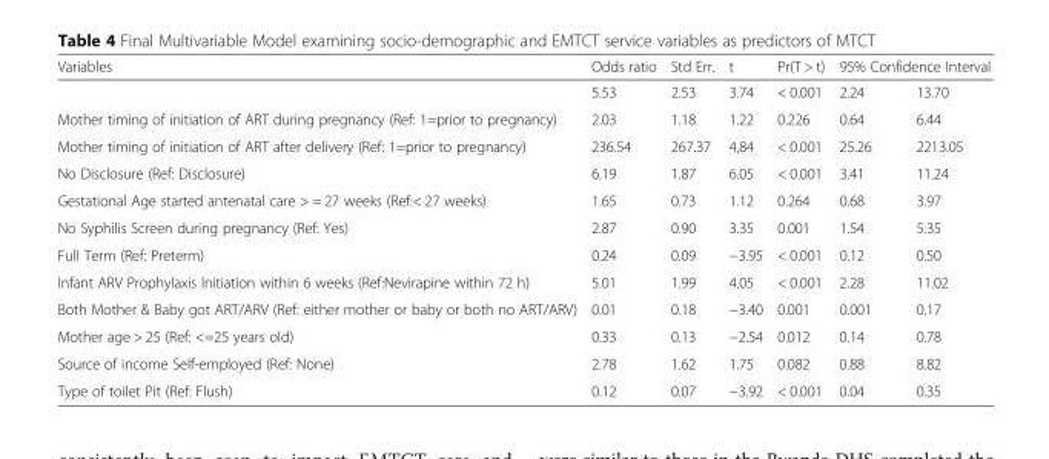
<table><thead><tr><td rowspan="2">Variables</td><td rowspan="2">Odds ratio 5.53</td><td rowspan="2">Std Err. 2.53</td><td rowspan="2">t 3.74</td><td rowspan="2">Pr(T &gt; t) &lt; 0.001</td><td colspan="2">95% Confidence Interval</td></tr><tr><td>2.24</td><td>13.70</td></tr></thead><tbody><tr><td>Mother timing of initiation of ART during pregnancy (Ref: 1=prior to pregnancy)</td><td>2.03</td><td>1.18</td><td>1.22</td><td>0.226</td><td>0.64</td><td>6.44</td></tr><tr><td>Mother timing of initiation of ART after delivery (Ref: 1=prior to pregnancy)</td><td>236.54</td><td>267.37</td><td>4,84</td><td>&lt; 0.001</td><td>25.26</td><td>2213.05</td></tr><tr><td>No Disclosure (Ref: Disclosure)</td><td>6.19</td><td>1.87</td><td>6.05</td><td>&lt; 0.001</td><td>3.41</td><td>11.24</td></tr><tr><td>Gestational Age started antenatal care &gt; = 27 weeks (Ref:&lt; 27 weeks)</td><td>1.65</td><td>0.73</td><td>1.12</td><td>0.264</td><td>0.68</td><td>3.97</td></tr><tr><td>No Syphilis Screen during pregnancy (Ref: Yes)</td><td>2.87</td><td>0.90</td><td>3.35</td><td>0.001</td><td>1.54</td><td>5.35</td></tr><tr><td>Full Term (Ref: Preterm)</td><td>0.24</td><td>0.09</td><td>−3.95</td><td>&lt; 0.001</td><td>0.12</td><td>0.50</td></tr><tr><td>Infant ARV Prophylaxis Initiation within 6 weeks (Ref:Nevirapine within 72 h)</td><td>5.01</td><td>1.99</td><td>4.05</td><td>&lt; 0.001</td><td>2.28</td><td>11.02</td></tr><tr><td>Both Mother &amp; Baby got ART/ARV (Ref: either mother or baby or both no ART/ARV)</td><td>0.01</td><td>0.18</td><td>−3.40</td><td>0.001</td><td>0.001</td><td>0.17</td></tr><tr><td>Mother age &gt; 25 (Ref: &lt;=25 years old)</td><td>0.33</td><td>0.13</td><td>−2.54</td><td>0.012</td><td>0.14</td><td>0.78</td></tr><tr><td>Source of income Self-employed (Ref: None)</td><td>2.78</td><td>1.62</td><td>1.75</td><td>0.082</td><td>0.88</td><td>8.82</td></tr><tr><td>Type of toilet Pit (Ref: Flush)</td><td>0.12</td><td>0.07</td><td>−3.92</td><td>&lt; 0.001</td><td>0.04</td><td>0.35</td></tr></tbody></table>